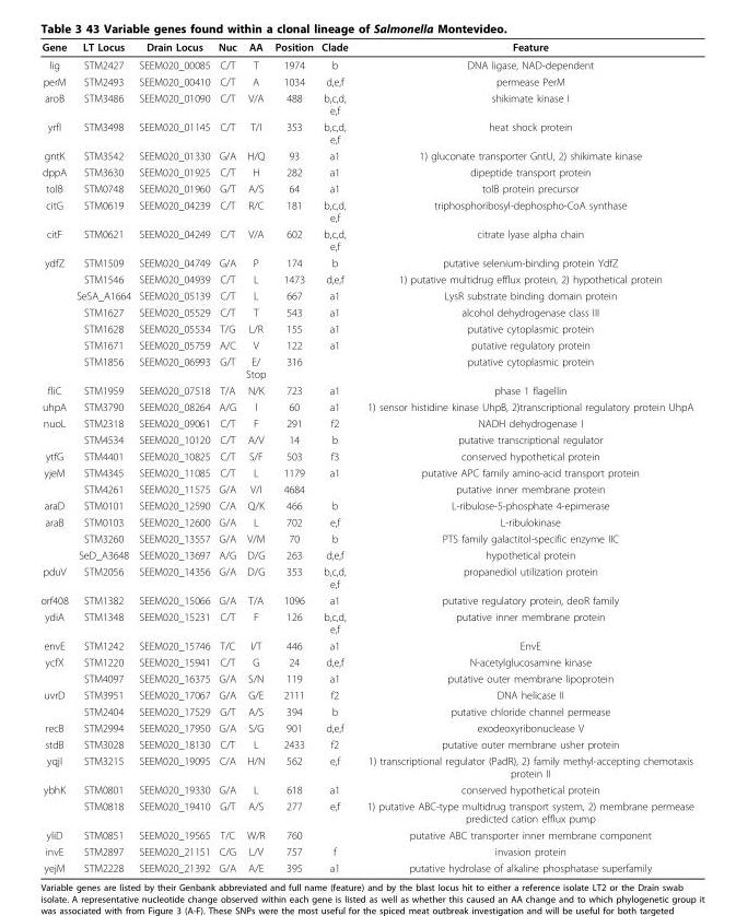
<table><thead><tr><td>Gene</td><td>LT Locus</td><td>Drain Locus</td><td>Nuc</td><td>AA</td><td>Position</td><td>Clade</td><td>Feature</td></tr></thead><tbody><tr><td>lig</td><td>STM2427</td><td>SEEM020_00085</td><td>C/T</td><td>T</td><td>1974</td><td>b</td><td>DNA ligase, NAD-dependent</td></tr><tr><td>perM</td><td>STM2493</td><td>SEEM020_00410</td><td>C/T</td><td>A</td><td>1034</td><td>d,e,f</td><td>permease PerM</td></tr><tr><td>aroB</td><td>STM3486</td><td>SEEM020_01090</td><td>C/T</td><td>V/A</td><td>488</td><td>b,c,d, e,f</td><td>shikimate kinase I</td></tr><tr><td>yrfI</td><td>STM3498</td><td>SEEM020_01145</td><td>C/T</td><td>T/I</td><td>353</td><td>b,c,d, e,f</td><td>heat shock protein</td></tr><tr><td>gntK</td><td>STM3542</td><td>SEEM020_01330</td><td>G/A</td><td>H/Q</td><td>93</td><td>a1</td><td>1) gluconate transporter GntU, 2) shikimate kinase</td></tr><tr><td>dppA</td><td>STM3630</td><td>SEEM020_01925</td><td>C/T</td><td>H</td><td>282</td><td>a1</td><td>dipeptide transport protein</td></tr><tr><td>tolB</td><td>STM0748</td><td>SEEM020_01960</td><td>G/T</td><td>A/S</td><td>64</td><td>a1</td><td>tolB protein precursor</td></tr><tr><td>citG</td><td>STM0619</td><td>SEEM020_04239</td><td>C/T</td><td>R/C</td><td>181</td><td>b,c,d, e,f</td><td>triphosphoribosyl-dephospho-CoA synthase</td></tr><tr><td>citF</td><td>STM0621</td><td>SEEM020_04249</td><td>C/T</td><td>V/A</td><td>602</td><td>b,c,d, e,f</td><td>citrate lyase alpha chain</td></tr><tr><td rowspan="7">ydfZ</td><td>STM1509</td><td>SEEM020_04749</td><td>G/A</td><td>P</td><td>174</td><td>b</td><td>putative selenium-binding protein YdfZ</td></tr><tr><td>STM1546</td><td>SEEM020_04939</td><td>C/T</td><td>L</td><td>1473</td><td>d,e,f</td><td>1) putative multidrug efflux protein, 2) hypothetical protein</td></tr><tr><td>SeSA_A1664</td><td>SEEM020_05139</td><td>C/T</td><td>L</td><td>667</td><td>a1</td><td>LysR substrate binding domain protein</td></tr><tr><td>STM1627</td><td>SEEM020_05529</td><td>C/T</td><td>T</td><td>543</td><td>a1</td><td>alcohol dehydrogenase class III</td></tr><tr><td>STM1628</td><td>SEEM020_05534</td><td>T/G</td><td>L/R</td><td>155</td><td>a1</td><td>putative cytoplasmic protein</td></tr><tr><td>STM1671</td><td>SEEM020_05759</td><td>A/C</td><td>V</td><td>122</td><td>a1</td><td>putative regulatory protein</td></tr><tr><td>STM1856</td><td>SEEM020_06993</td><td>G/T</td><td>E/ Stop</td><td>316</td><td></td><td>putative cytoplasmic protein</td></tr><tr><td>fliC</td><td>STM1959</td><td>SEEM020_07518</td><td>T/A</td><td>N/K</td><td>723</td><td>a1</td><td>phase 1 flagellin</td></tr><tr><td>uhpA</td><td>STM3790</td><td>SEEM020_08264</td><td>A/G</td><td>l</td><td>60</td><td>a1</td><td>1) sensor histidine kinase UhpB, 2)transcriptional regulatory protein UhpA</td></tr><tr><td rowspan="2">nuoL</td><td>STM2318</td><td>SEEM020_09061</td><td>C/T</td><td>F</td><td>291</td><td>f2</td><td>NADH dehydrogenase I</td></tr><tr><td>STM4534</td><td>SEEM020_10120</td><td>C/T</td><td>A/V</td><td>14</td><td>b</td><td>putative transcriptional regulator</td></tr><tr><td>ytfG</td><td>STM4401</td><td>SEEM020_10825</td><td>C/T</td><td>S/F</td><td>503</td><td>f3</td><td>conserved hypothetical protein</td></tr><tr><td rowspan="2">yjeM</td><td>STM4345</td><td>SEEM020_11085</td><td>C/T</td><td>L</td><td>1179</td><td>a1</td><td>putative APC family amino-acid transport protein</td></tr><tr><td>STM4261</td><td>SEEM020_11575</td><td>G/A</td><td>V/I</td><td>4684</td><td></td><td>putative inner membrane protein</td></tr><tr><td>araD</td><td>STM0101</td><td>SEEM020_12590</td><td>C/A</td><td>Q/K</td><td>466</td><td>b</td><td>L-ribulose-5-phosphate 4-epimerase</td></tr><tr><td rowspan="3">araB</td><td>STM0103</td><td>SEEM020_12600</td><td>G/A</td><td>L</td><td>702</td><td>e,f</td><td>L-ribulokinase</td></tr><tr><td>STM3260</td><td>SEEM020_13557</td><td>G/A</td><td>V/M</td><td>70</td><td>b</td><td>PTS family galactitol-specific enzyme IIC</td></tr><tr><td>SeD_A3648</td><td>SEEM020_13697</td><td>A/G</td><td>D/G</td><td>263</td><td>d,e,f</td><td>hypothetical protein</td></tr><tr><td>pduV</td><td>STM2056</td><td>SEEM020_14356</td><td>G/A</td><td>D/G</td><td>353</td><td>b,c,d, e,f</td><td>propanediol utilization protein</td></tr><tr><td>orf408</td><td>STM1382</td><td>SEEM020_15066</td><td>G/A</td><td>T/A</td><td>1096</td><td>a1</td><td>putative regulatory protein, deoR family</td></tr><tr><td>ydiA</td><td>STM1348</td><td>SEEM020_15231</td><td>C/T</td><td>F</td><td>126</td><td>b,c,d, e,f</td><td>putative inner membrane protein</td></tr><tr><td>envE</td><td>STM1242</td><td>SEEM020_15746</td><td>T/C</td><td>I/T</td><td>446</td><td>a1</td><td>EnvE</td></tr><tr><td rowspan="2">ycfX</td><td>STM1220</td><td>SEEM020_15941</td><td>C/T</td><td>G</td><td>24</td><td>d,e,f</td><td>N-acetylglucosamine kinase</td></tr><tr><td>STM4097</td><td>SEEM020_16375</td><td>G/A</td><td>S/N</td><td>119</td><td>a1</td><td>putative outer membrane lipoprotein</td></tr><tr><td rowspan="2">uvrD</td><td>STM3951</td><td>SEEM020_17067</td><td>G/A</td><td>G/E</td><td>2111</td><td>f2</td><td>DNA helicase II</td></tr><tr><td>STM2404</td><td>SEEM020_17529</td><td>G/T</td><td>A/S</td><td>394</td><td>b</td><td>putative chloride channel permease</td></tr><tr><td>recB</td><td>STM2994</td><td>SEEM020_17950</td><td>G/A</td><td>S/G</td><td>901</td><td>d,e,f</td><td>exodeoxyribonuclease V</td></tr><tr><td>stdB</td><td>STM3028</td><td>SEEM020_18130</td><td>C/T</td><td>L</td><td>2433</td><td>f2</td><td>putative outer membrane usher protein</td></tr><tr><td>yqjI</td><td>STM3215</td><td>SEEM020_19095</td><td>C/A</td><td>H/N</td><td>562</td><td>e,f</td><td>1) transcriptional regulator (PadR), 2) family methyl-accepting chemotaxis protein II</td></tr><tr><td rowspan="2">ybhK</td><td>STM0801</td><td>SEEM020_19330</td><td>G/A</td><td>L</td><td>618</td><td>a1</td><td>conserved hypothetical protein</td></tr><tr><td>STM0818</td><td>SEEM020_19410</td><td>G/T</td><td>A/S</td><td>277</td><td>e,f</td><td>1) putative ABC-type multidrug transport system, 2) membrane permease predicted cation efflux pump</td></tr><tr><td>yliD</td><td>STM0851</td><td>SEEM020_19565</td><td>T/C</td><td>W/R</td><td>760</td><td></td><td>putative ABC transporter inner membrane component</td></tr><tr><td>invE</td><td>STM2897</td><td>SEEM020_21151</td><td>C/G</td><td>L/V</td><td>757</td><td>f</td><td>invasion protein</td></tr><tr><td>yejM</td><td>STM2228</td><td>SEEM020_21392</td><td>G/A</td><td>A/E</td><td>395</td><td>a1</td><td>putative hydrolase of alkaline phosphatase superfamily</td></tr></tbody></table>